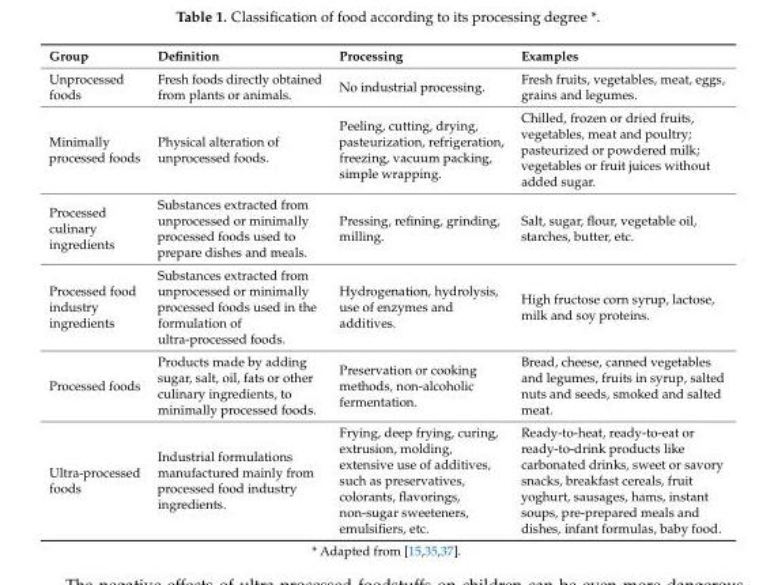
<table><thead><tr><td>Group</td><td>Definition</td><td>Processing</td><td>Examples</td></tr></thead><tbody><tr><td>Unprocessed foods</td><td>Fresh foods directly obtained from plants or animals.</td><td>No industrial processing.</td><td>Fresh fruits, vegetables, meat, eggs, grains and legumes.</td></tr><tr><td>Minimally processed foods</td><td>Physical alteration of unprocessed foods.</td><td>Peeling, cutting, drying, pasteurization, refrigeration, freezing, vacuum packing, simple wrapping.</td><td>Chilled, frozen or dried fruits, vegetables, meat and poultry; pasteurized or powdered milk; vegetables or fruit juices without added sugar.</td></tr><tr><td>Processed culinary ingredients</td><td>Substances extracted from unprocessed or minimally processed foods used to prepare dishes and meals.</td><td>Pressing, refining, grinding, milling.</td><td>Salt, sugar, flour, vegetable oil, starches, butter, etc.</td></tr><tr><td>Processed food industry ingredients</td><td>Substances extracted from unprocessed or minimally processed foods used in the formulation of ultra-processed foods.</td><td>Hydrogenation, hydrolysis, use of enzymes and additives.</td><td>High fructose corn syrup, lactose, milk and soy proteins.</td></tr><tr><td>Processed foods</td><td>Products made by adding sugar, salt, oil, fats or other culinary ingredients, to minimally processed foods.</td><td>Preservation or cooking methods, non-alcoholic fermentation.</td><td>Bread, cheese, canned vegetables and legumes, fruits in syrup, salted nuts and seeds, smoked and salted meat.</td></tr><tr><td>Ultra-processed foods</td><td>Industrial formulations manufactured mainly from processed food industry ingredients.</td><td>Frying, deep frying, curing, extrusion, molding, extensive use of additives, such as preservatives, colorants, flavorings, non-sugar sweeteners, emulsifiers, etc.</td><td>Ready-to-heat, ready-to-eat or ready-to-drink products like carbonated drinks, sweet or savory snacks, breakfast cereals, fruit yoghurt, sausages, hams, instant soups, pre-prepared meals and dishes, infant formulas, baby food.</td></tr></tbody></table>